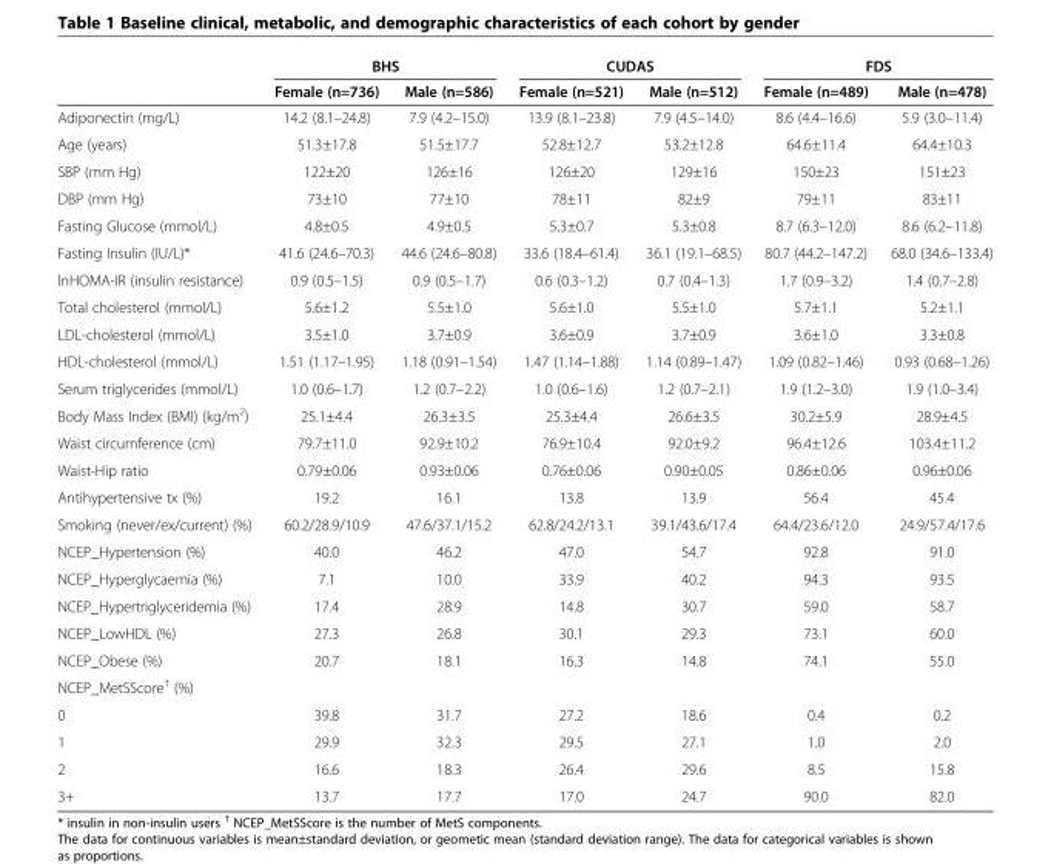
<table><thead><tr><td rowspan="2"></td><td colspan="2">BHS</td><td colspan="2">CUDAS</td><td colspan="2">FDS</td></tr><tr><td>Female (n=736)</td><td>Male (n=586)</td><td>Female (n=521)</td><td>Male (n=512)</td><td>Female (n=489)</td><td>Male (n=478)</td></tr></thead><tbody><tr><td>Adiponectin (mg/L)</td><td>14.2 (8.1–24.8)</td><td>7.9 (4.2–15.0)</td><td>13.9 (8.1–23.8)</td><td>7.9 (4.5–14.0)</td><td>8.6 (4.4–16.6)</td><td>5.9 (3.0–11.4)</td></tr><tr><td>Age (years)</td><td>51.3±17.8</td><td>51.5±17.7</td><td>52.8±12.7</td><td>53.2±12.8</td><td>64.6±11.4</td><td>64.4±10.3</td></tr><tr><td>SBP (mm Hg)</td><td>122±20</td><td>126±16</td><td>126±20</td><td>129±16</td><td>150±23</td><td>151±23</td></tr><tr><td>DBP (mm Hg)</td><td>73±10</td><td>77±10</td><td>78±11</td><td>82±9</td><td>79±11</td><td>83±11</td></tr><tr><td>Fasting Glucose (mmol/L)</td><td>4.8±0.5</td><td>4.9±0.5</td><td>5.3±0.7</td><td>5.3±0.8</td><td>8.7 (6.3–12.0)</td><td>8.6 (6.2–11.8)</td></tr><tr><td>Fasting Insulin (IU/L)*</td><td>41.6 (24.6–70.3)</td><td>44.6 (24.6–80.8)</td><td>33.6 (18.4–61.4)</td><td>36.1 (19.1–68.5)</td><td>80.7 (44.2–147.2)</td><td>68.0 (34.6–133.4)</td></tr><tr><td>lnHOMA-IR (insulin resistance)</td><td>0.9 (0.5–1.5)</td><td>0.9 (0.5–1.7)</td><td>0.6 (0.3–1.2)</td><td>0.7 (0.4–1.3)</td><td>1.7 (0.9–3.2)</td><td>1.4 (0.7–2.8)</td></tr><tr><td>Total cholesterol (mmol/L)</td><td>5.6±1.2</td><td>5.5±1.0</td><td>5.6±1.0</td><td>5.5±1.0</td><td>5.7±1.1</td><td>5.2±1.1</td></tr><tr><td>LDL-cholesterol (mmol/L)</td><td>3.5±1.0</td><td>3.7±0.9</td><td>3.6±0.9</td><td>3.7±0.9</td><td>3.6±1.0</td><td>3.3±0.8</td></tr><tr><td>HDL-cholesterol (mmol/L)</td><td>1.51 (1.17–1.95)</td><td>1.18 (0.91–1.54)</td><td>1.47 (1.14–1.88)</td><td>1.14 (0.89–1.47)</td><td>1.09 (0.82–1.46)</td><td>0.93 (0.68–1.26)</td></tr><tr><td>Serum triglycerides (mmol/L)</td><td>1.0 (0.6–1.7)</td><td>1.2 (0.7–2.2)</td><td>1.0 (0.6–1.6)</td><td>1.2 (0.7–2.1)</td><td>1.9 (1.2–3.0)</td><td>1.9 (1.0–3.4)</td></tr><tr><td>Body Mass Index (BMI) (kg/m<sup>2</sup>)</td><td>25.1±4.4</td><td>26.3±3.5</td><td>25.3±4.4</td><td>26.6±3.5</td><td>30.2±5.9</td><td>28.9±4.5</td></tr><tr><td>Waist circumference (cm)</td><td>79.7±11.0</td><td>92.9±10.2</td><td>76.9±10.4</td><td>92.0±9.2</td><td>96.4±12.6</td><td>103.4±11.2</td></tr><tr><td>Waist-Hip ratio</td><td>0.79±0.06</td><td>0.93±0.06</td><td>0.76±0.06</td><td>0.90±0.05</td><td>0.86±0.06</td><td>0.96±0.06</td></tr><tr><td>Antihypertensive tx (%)</td><td>19.2</td><td>16.1</td><td>13.8</td><td>13.9</td><td>56.4</td><td>45.4</td></tr><tr><td>Smoking (never/ex/current) (%)</td><td>60.2/28.9/10.9</td><td>47.6/37.1/15.2</td><td>62.8/24.2/13.1</td><td>39.1/43.6/17.4</td><td>64.4/23.6/12.0</td><td>24.9/57.4/17.6</td></tr><tr><td>NCEP_Hypertension (%)</td><td>40.0</td><td>46.2</td><td>47.0</td><td>54.7</td><td>92.8</td><td>91.0</td></tr><tr><td>NCEP_Hyperglycaemia (%)</td><td>7.1</td><td>10.0</td><td>33.9</td><td>40.2</td><td>94.3</td><td>93.5</td></tr><tr><td>NCEP_Hypertriglyceridemia (%)</td><td>17.4</td><td>28.9</td><td>14.8</td><td>30.7</td><td>59.0</td><td>58.7</td></tr><tr><td>NCEP_LowHDL (%)</td><td>27.3</td><td>26.8</td><td>30.1</td><td>29.3</td><td>73.1</td><td>60.0</td></tr><tr><td>NCEP_Obese (%)</td><td>20.7</td><td>18.1</td><td>16.3</td><td>14.8</td><td>74.1</td><td>55.0</td></tr><tr><td colspan="7">NCEP_MetSScore<sup>†</sup> (%)</td></tr><tr><td>0</td><td>39.8</td><td>31.7</td><td>27.2</td><td>18.6</td><td>0.4</td><td>0.2</td></tr><tr><td>1</td><td>29.9</td><td>32.3</td><td>29.5</td><td>27.1</td><td>1.0</td><td>2.0</td></tr><tr><td>2</td><td>16.6</td><td>18.3</td><td>26.4</td><td>29.6</td><td>8.5</td><td>15.8</td></tr><tr><td>3+</td><td>13.7</td><td>17.7</td><td>17.0</td><td>24.7</td><td>90.0</td><td>82.0</td></tr></tbody></table>